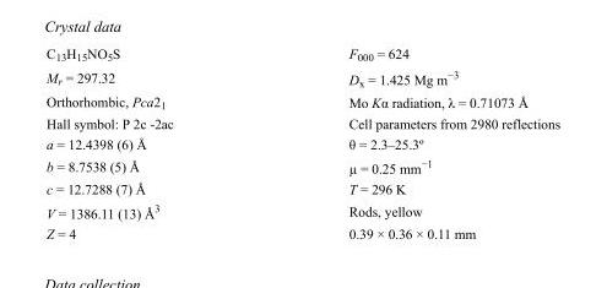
<table><tbody><tr><td>C<sub>13</sub>H<sub>15</sub>NO<sub>5</sub>S</td><td>F000 = 624</td></tr><tr><td>M<sub>r</sub> = 297.32</td><td>D<sub>x</sub> = 1.425 Mg m<sup>−3</sup></td></tr><tr><td>Orthorhombic, Pca2<sub>1</sub></td><td>Mo Kα radiation, λ = 0.71073 Å</td></tr><tr><td>Hall symbol: P 2c -2ac</td><td>Cell parameters from 2980 reflections</td></tr><tr><td>a = 12.4398 (6) Å</td><td>θ = 2.3–25.3º</td></tr><tr><td>b = 8.7538 (5) Å</td><td>µ = 0.25 mm<sup>−1</sup></td></tr><tr><td>c = 12.7288 (7) Å</td><td>T = 296 K</td></tr><tr><td>V = 1386.11 (13) Å<sup>3</sup></td><td>Rods, yellow</td></tr><tr><td>Z = 4</td><td>0.39 × 0.36 × 0.11 mm</td></tr></tbody></table>